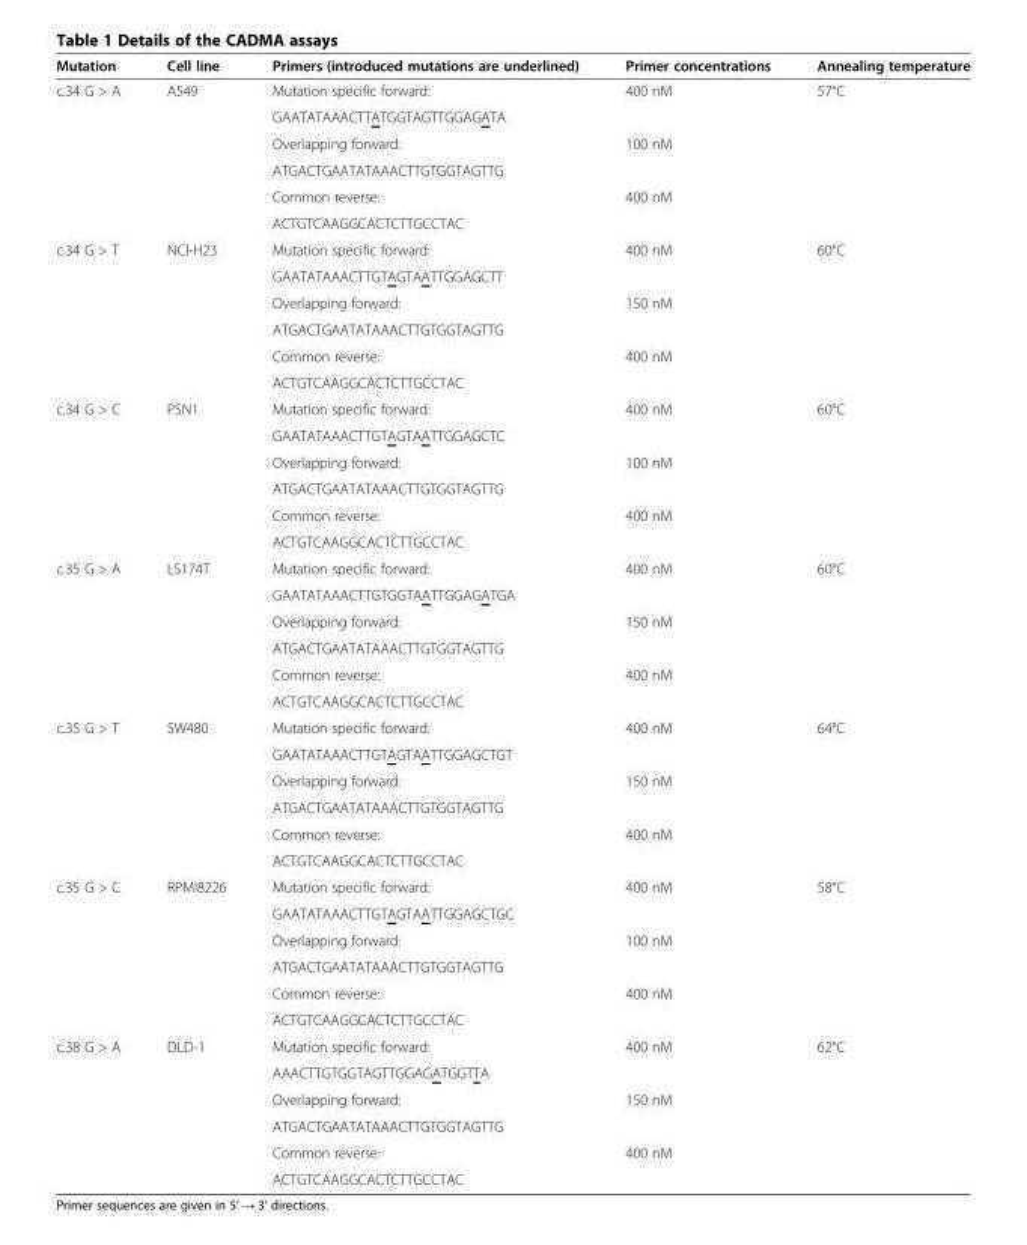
<table><thead><tr><td>Mutation</td><td>Cell line</td><td>Primers (introduced mutations are underlined)</td><td>Primer concentrations</td><td>Annealing temperature</td></tr></thead><tbody><tr><td rowspan="6">c.34 G &gt; A</td><td>A549</td><td>Mutation specific forward:</td><td>400 nM</td><td>57°C</td></tr><tr><td></td><td>GAATATAAACTTATGGTAGTTGGAGATA</td><td></td><td></td></tr><tr><td></td><td>Overlapping forward:</td><td>100 nM</td><td></td></tr><tr><td></td><td>ATGACTGAATATAAACTTGTGGTAGTTG</td><td></td><td></td></tr><tr><td></td><td>Common reverse:</td><td>400 nM</td><td></td></tr><tr><td></td><td>ACTGTCAAGGCACTCTTGCCTAC</td><td></td><td></td></tr><tr><td rowspan="6">c.34 G &gt; T</td><td>NCI-H23</td><td>Mutation specific forward:</td><td>400 nM</td><td>60°C</td></tr><tr><td></td><td>GAATATAAACTTGTAGTAATTGGAGCTT</td><td></td><td></td></tr><tr><td></td><td>Overlapping forward:</td><td>150 nM</td><td></td></tr><tr><td></td><td>ATGACTGAATATAAACTTGTGGTAGTTG</td><td></td><td></td></tr><tr><td></td><td>Common reverse:</td><td>400 nM</td><td></td></tr><tr><td></td><td>ACTGTCAAGGCACTCTTGCCTAC</td><td></td><td></td></tr><tr><td rowspan="6">c.34 G &gt; C</td><td>PSN1</td><td>Mutation specific forward:</td><td>400 nM</td><td>60°C</td></tr><tr><td></td><td>GAATATAAACTTGTAGTAATTGGAGCTC</td><td></td><td></td></tr><tr><td></td><td>Overlapping forward:</td><td>100 nM</td><td></td></tr><tr><td></td><td>ATGACTGAATATAAACTTGTGGTAGTTG</td><td></td><td></td></tr><tr><td></td><td>Common reverse:</td><td>400 nM</td><td></td></tr><tr><td></td><td>ACTGTCAAGGCACTCTTGCCTAC</td><td></td><td></td></tr><tr><td rowspan="6">c.35 G &gt; A</td><td>LS174T</td><td>Mutation specific forward:</td><td>400 nM</td><td>60°C</td></tr><tr><td></td><td>GAATATAAACTTGTGGTAATTGGAGATGA</td><td></td><td></td></tr><tr><td></td><td>Overlapping forward:</td><td>150 nM</td><td></td></tr><tr><td></td><td>ATGACTGAATATAAACTTGTGGTAGTTG</td><td></td><td></td></tr><tr><td></td><td>Common reverse:</td><td>400 nM</td><td></td></tr><tr><td></td><td>ACTGTCAAGGCACTCTTGCCTAC</td><td></td><td></td></tr><tr><td rowspan="6">c.35 G &gt; T</td><td>SW480</td><td>Mutation specific forward:</td><td>400 nM</td><td>64°C</td></tr><tr><td></td><td>GAATATAAACTTGTAGTAATTGGAGCTGT</td><td></td><td></td></tr><tr><td></td><td>Overlapping forward:</td><td>150 nM</td><td></td></tr><tr><td></td><td>ATGACTGAATATAAACTTGTGGTAGTTG</td><td></td><td></td></tr><tr><td></td><td>Common reverse:</td><td>400 nM</td><td></td></tr><tr><td></td><td>ACTGTCAAGGCACTCTTGCCTAC</td><td></td><td></td></tr><tr><td rowspan="6">c.35 G &gt; C</td><td>RPMI8226</td><td>Mutation specific forward:</td><td>400 nM</td><td>58°C</td></tr><tr><td></td><td>GAATATAAACTTGTAGTAATTGGAGCTGC</td><td></td><td></td></tr><tr><td></td><td>Overlapping forward:</td><td>100 nM</td><td></td></tr><tr><td></td><td>ATGACTGAATATAAACTTGTGGTAGTTG</td><td></td><td></td></tr><tr><td></td><td>Common reverse:</td><td>400 nM</td><td></td></tr><tr><td></td><td>ACTGTCAAGGCACTCTTGCCTAC</td><td></td><td></td></tr><tr><td rowspan="6">c.38 G &gt; A</td><td>DLD-1</td><td>Mutation specific forward:</td><td>400 nM</td><td>62°C</td></tr><tr><td></td><td>AAACTTGTGGTAGTTGGAGATGGTTA</td><td></td><td></td></tr><tr><td></td><td>Overlapping forward:</td><td>150 nM</td><td></td></tr><tr><td></td><td>ATGACTGAATATAAACTTGTGGTAGTTG</td><td></td><td></td></tr><tr><td></td><td>Common reverse:</td><td>400 nM</td><td></td></tr><tr><td></td><td>ACTGTCAAGGCACTCTTGCCTAC</td><td></td><td></td></tr></tbody></table>